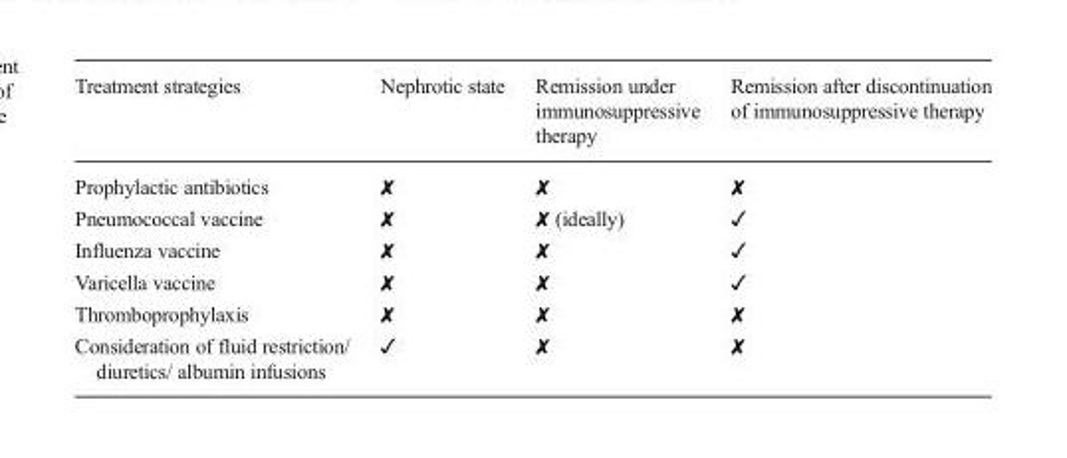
<table><thead><tr><td>Treatment strategies</td><td>Nephrotic state</td><td>Remission under immunosuppressive therapy</td><td>Remission after discontinuation of immunosuppressive therapy</td></tr></thead><tbody><tr><td>Prophylactic antibiotics</td><td>✘</td><td>✘</td><td>✘</td></tr><tr><td>Pneumococcal vaccine</td><td>✘</td><td>✘ (ideally)</td><td>✓</td></tr><tr><td>Influenza vaccine</td><td>✘</td><td>✘</td><td>✓</td></tr><tr><td>Varicella vaccine</td><td>✘</td><td>✘</td><td>✓</td></tr><tr><td>Thromboprophylaxis</td><td>✘</td><td>✘</td><td>✘</td></tr><tr><td>Consideration of fluid restriction/ diuretics/ albumin infusions</td><td>✓</td><td>✘</td><td>✘</td></tr></tbody></table>